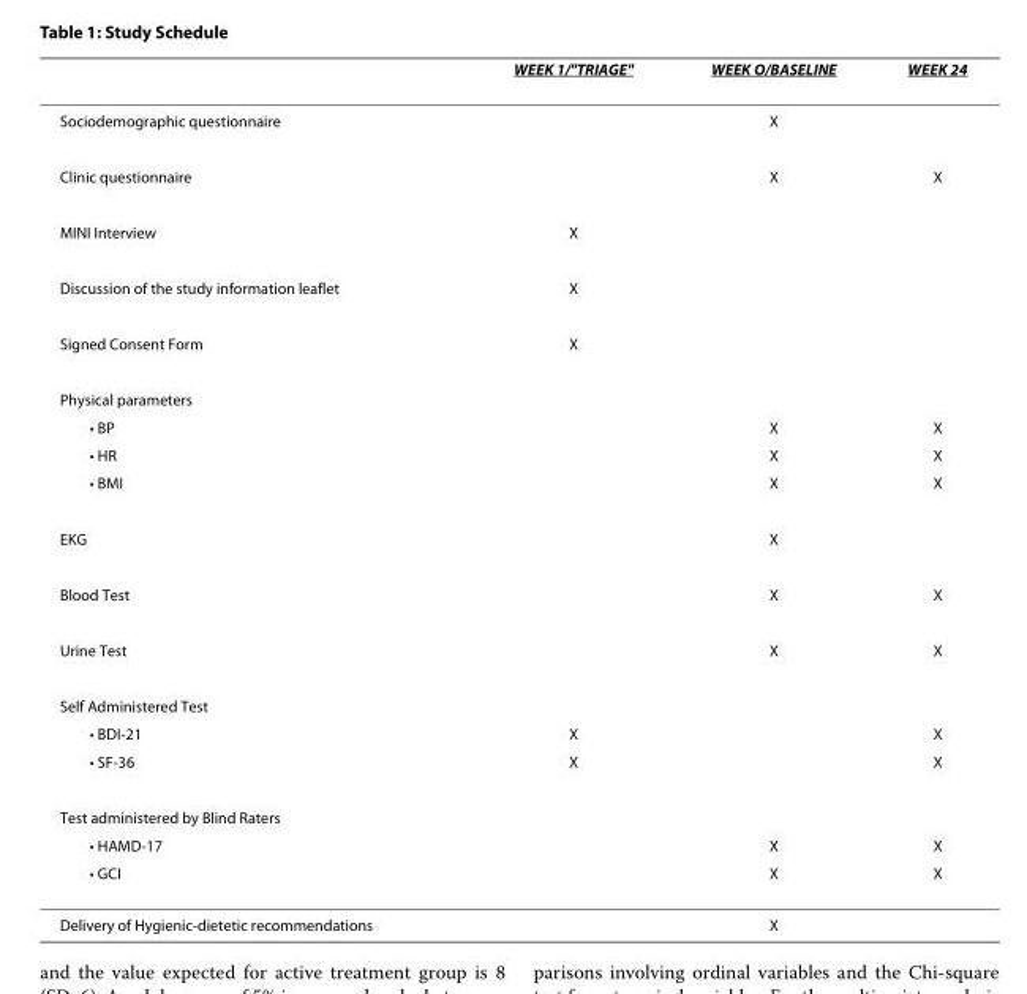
<table><thead><tr><td></td><td>WEEK 1/&quot;TRIAGE&quot;</td><td>WEEK O/BASELINE</td><td>WEEK 24</td></tr></thead><tbody><tr><td>Sociodemographic questionnaire</td><td></td><td>X</td><td></td></tr><tr><td>Clinic questionnaire</td><td></td><td>X</td><td>X</td></tr><tr><td>MINI Interview</td><td>X</td><td></td><td></td></tr><tr><td>Discussion of the study information leaflet</td><td>X</td><td></td><td></td></tr><tr><td>Signed Consent Form</td><td>X</td><td></td><td></td></tr><tr><td colspan="4">Physical parameters</td></tr><tr><td>• BP</td><td></td><td>X</td><td>X</td></tr><tr><td>• HR</td><td></td><td>X</td><td>X</td></tr><tr><td>• BMI</td><td></td><td>X</td><td>X</td></tr><tr><td>EKG</td><td></td><td>X</td><td></td></tr><tr><td>Blood Test</td><td></td><td>X</td><td>X</td></tr><tr><td>Urine Test</td><td></td><td>X</td><td>X</td></tr><tr><td colspan="4">Self Administered Test</td></tr><tr><td>• BDI-21</td><td>X</td><td></td><td>X</td></tr><tr><td>• SF-36</td><td>X</td><td></td><td>X</td></tr><tr><td colspan="4">Test administered by Blind Raters</td></tr><tr><td>• HAMD-17</td><td></td><td>X</td><td>X</td></tr><tr><td>• GCI</td><td></td><td>X</td><td>X</td></tr><tr><td>Delivery of Hygienic-dietetic recommendations</td><td></td><td>X</td><td></td></tr></tbody></table>